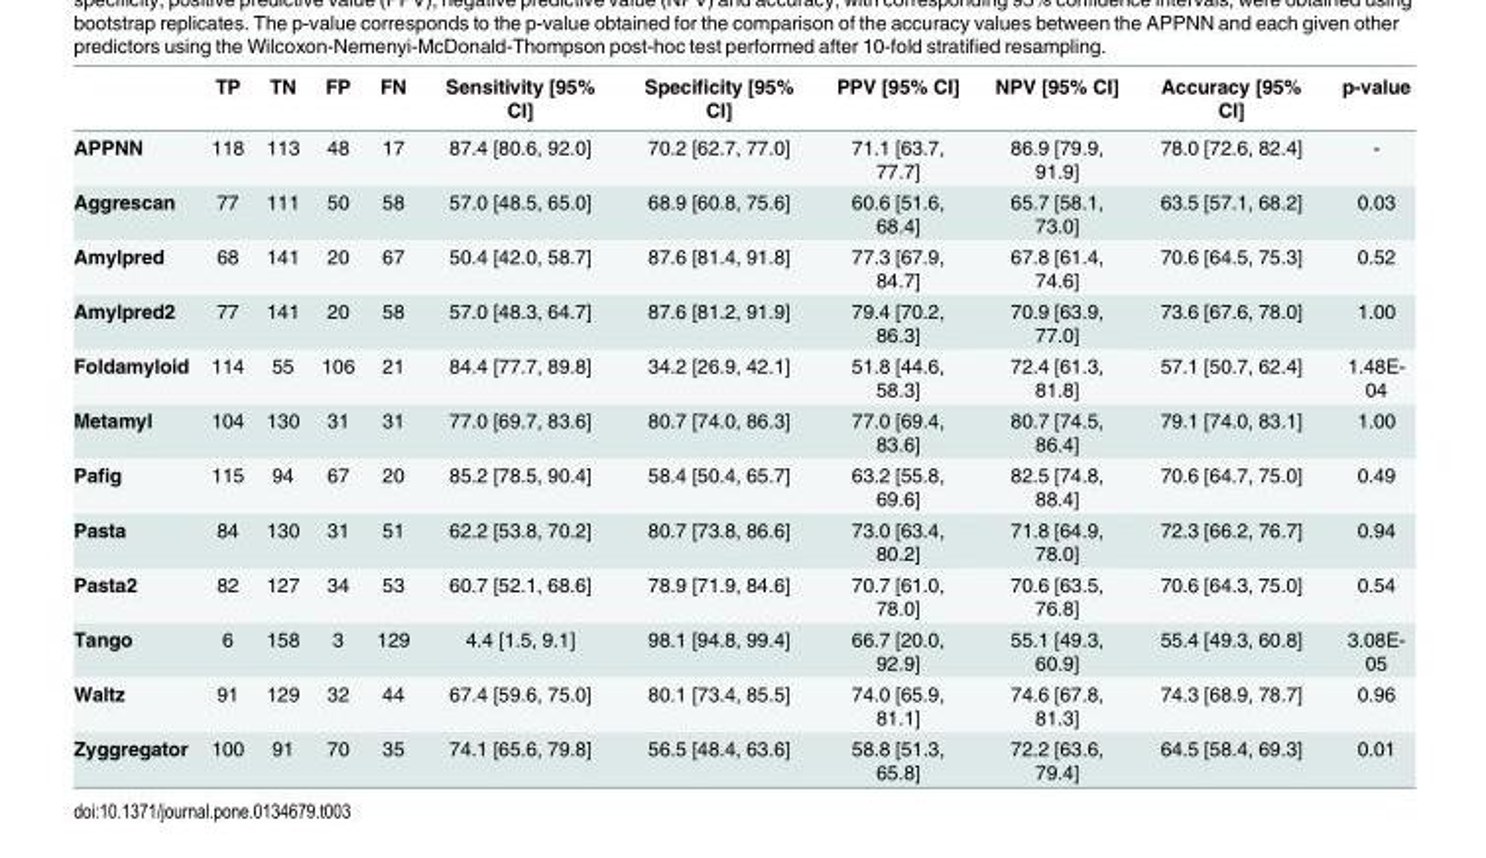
<table><thead><tr><td></td><td>TP</td><td>TN</td><td>FP</td><td>FN</td><td>Sensitivity [95% CI]</td><td>Specificity [95% CI]</td><td>PPV [95% CI]</td><td>NPV [95% CI]</td><td>Accuracy [95% CI]</td><td>p-value</td></tr></thead><tbody><tr><td>APPNN</td><td>118</td><td>113</td><td>48</td><td>17</td><td>87.4 [80.6, 92.0]</td><td>70.2 [62.7, 77.0]</td><td>71.1 [63.7, 77.7]</td><td>86.9 [79.9, 91.9]</td><td>78.0 [72.6, 82.4]</td><td>-</td></tr><tr><td>Aggrescan</td><td>77</td><td>111</td><td>50</td><td>58</td><td>57.0 [48.5, 65.0]</td><td>68.9 [60.8, 75.6]</td><td>60.6 [51.6, 68.4]</td><td>65.7 [58.1, 73.0]</td><td>63.5 [57.1, 68.2]</td><td>0.03</td></tr><tr><td>Amylpred</td><td>68</td><td>141</td><td>20</td><td>67</td><td>50.4 [42.0, 58.7]</td><td>87.6 [81.4, 91.8]</td><td>77.3 [67.9, 84.7]</td><td>67.8 [61.4, 74.6]</td><td>70.6 [64.5, 75.3]</td><td>0.52</td></tr><tr><td>Amylpred2</td><td>77</td><td>141</td><td>20</td><td>58</td><td>57.0 [48.3, 64.7]</td><td>87.6 [81.2, 91.9]</td><td>79.4 [70.2, 86.3]</td><td>70.9 [63.9, 77.0]</td><td>73.6 [67.6, 78.0]</td><td>1.00</td></tr><tr><td>Foldamyloid</td><td>114</td><td>55</td><td>106</td><td>21</td><td>84.4 [77.7, 89.8]</td><td>34.2 [26.9, 42.1]</td><td>51.8 [44.6, 58.3]</td><td>72.4 [61.3, 81.8]</td><td>57.1 [50.7, 62.4]</td><td>1.48E- 04</td></tr><tr><td>Metamyl</td><td>104</td><td>130</td><td>31</td><td>31</td><td>77.0 [69.7, 83.6]</td><td>80.7 [74.0, 86.3]</td><td>77.0 [69.4, 83.6]</td><td>80.7 [74.5, 86.4]</td><td>79.1 [74.0, 83.1]</td><td>1.00</td></tr><tr><td>Pafig</td><td>115</td><td>94</td><td>67</td><td>20</td><td>85.2 [78.5, 90.4]</td><td>58.4 [50.4, 65.7]</td><td>63.2 [55.8, 69.6]</td><td>82.5 [74.8, 88.4]</td><td>70.6 [64.7, 75.0]</td><td>0.49</td></tr><tr><td>Pasta</td><td>84</td><td>130</td><td>31</td><td>51</td><td>62.2 [53.8, 70.2]</td><td>80.7 [73.8, 86.6]</td><td>73.0 [63.4, 80.2]</td><td>71.8 [64.9, 78.0]</td><td>72.3 [66.2, 76.7]</td><td>0.94</td></tr><tr><td>Pasta2</td><td>82</td><td>127</td><td>34</td><td>53</td><td>60.7 [52.1, 68.6]</td><td>78.9 [71.9, 84.6]</td><td>70.7 [61.0, 78.0]</td><td>70.6 [63.5, 76.8]</td><td>70.6 [64.3, 75.0]</td><td>0.54</td></tr><tr><td>Tango</td><td>6</td><td>158</td><td>3</td><td>129</td><td>4.4 [1.5, 9.1]</td><td>98.1 [94.8, 99.4]</td><td>66.7 [20.0, 92.9]</td><td>55.1 [49.3, 60.9]</td><td>55.4 [49.3, 60.8]</td><td>3.08E- 05</td></tr><tr><td>Waltz</td><td>91</td><td>129</td><td>32</td><td>44</td><td>67.4 [59.6, 75.0]</td><td>80.1 [73.4, 85.5]</td><td>74.0 [65.9, 81.1]</td><td>74.6 [67.8, 81.3]</td><td>74.3 [68.9, 78.7]</td><td>0.96</td></tr><tr><td>Zyggregator</td><td>100</td><td>91</td><td>70</td><td>35</td><td>74.1 [65.6, 79.8]</td><td>56.5 [48.4, 63.6]</td><td>58.8 [51.3, 65.8]</td><td>72.2 [63.6, 79.4]</td><td>64.5 [58.4, 69.3]</td><td>0.01</td></tr></tbody></table>